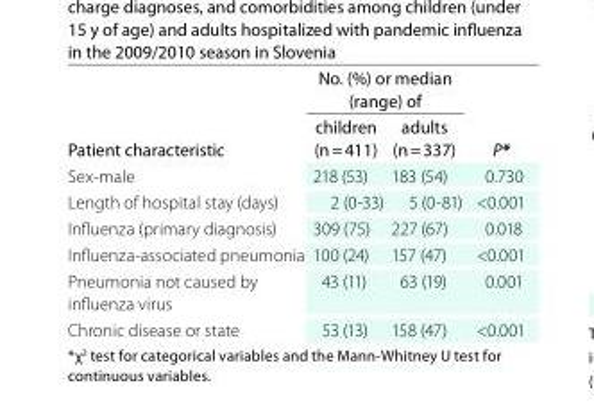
<table><thead><tr><td rowspan="2">Patient characteristic</td><td colspan="2">No. (%) or median (range) of</td><td rowspan="2">P*</td></tr><tr><td>children (n = 411)</td><td>adults (n = 337)</td></tr></thead><tbody><tr><td>Sex-male</td><td>218 (53)</td><td>183 (54)</td><td>0.730</td></tr><tr><td>Length of hospital stay (days)</td><td>2 (0-33)</td><td>5 (0-81)</td><td>&lt;0.001</td></tr><tr><td>Influenza (primary diagnosis)</td><td>309 (75)</td><td>227 (67)</td><td>0.018</td></tr><tr><td>Influenza-associated pneumonia</td><td>100 (24)</td><td>157 (47)</td><td>&lt;0.001</td></tr><tr><td>Pneumonia not caused by influenza virus</td><td>43 (11)</td><td>63 (19)</td><td>0.001</td></tr><tr><td>Chronic disease or state</td><td>53 (13)</td><td>158 (47)</td><td>&lt;0.001</td></tr></tbody></table>